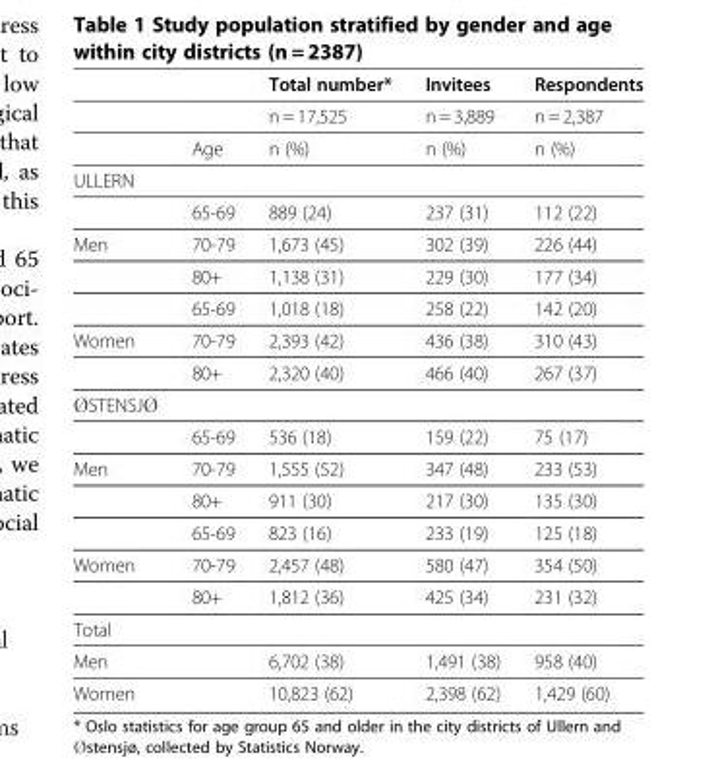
<table><thead><tr><td></td><td></td><td>Total number*</td><td>Invitees</td><td>Respondents</td></tr></thead><tbody><tr><td></td><td></td><td>n = 17,525</td><td>n = 3,889</td><td>n = 2,387</td></tr><tr><td></td><td>Age</td><td>n (%)</td><td>n (%)</td><td>n (%)</td></tr><tr><td colspan="5">ULLERN</td></tr><tr><td></td><td>65-69</td><td>889 (24)</td><td>237 (31)</td><td>112 (22)</td></tr><tr><td rowspan="3">Men</td><td>70-79</td><td>1,673 (45)</td><td>302 (39)</td><td>226 (44)</td></tr><tr><td>80+</td><td>1,138 (31)</td><td>229 (30)</td><td>177 (34)</td></tr><tr><td>65-69</td><td>1,018 (18)</td><td>258 (22)</td><td>142 (20)</td></tr><tr><td rowspan="2">Women</td><td>70-79</td><td>2,393 (42)</td><td>436 (38)</td><td>310 (43)</td></tr><tr><td>80+</td><td>2,320 (40)</td><td>466 (40)</td><td>267 (37)</td></tr><tr><td colspan="5">ØSTENSJØ</td></tr><tr><td></td><td>65-69</td><td>536 (18)</td><td>159 (22)</td><td>75 (17)</td></tr><tr><td rowspan="3">Men</td><td>70-79</td><td>1,555 (52)</td><td>347 (48)</td><td>233 (53)</td></tr><tr><td>80+</td><td>911 (30)</td><td>217 (30)</td><td>135 (30)</td></tr><tr><td>65-69</td><td>823 (16)</td><td>233 (19)</td><td>125 (18)</td></tr><tr><td rowspan="2">Women</td><td>70-79</td><td>2,457 (48)</td><td>580 (47)</td><td>354 (50)</td></tr><tr><td>80+</td><td>1,812 (36)</td><td>425 (34)</td><td>231 (32)</td></tr><tr><td colspan="5">Total</td></tr><tr><td>Men</td><td></td><td>6,702 (38)</td><td>1,491 (38)</td><td>958 (40)</td></tr><tr><td>Women</td><td></td><td>10,823 (62)</td><td>2,398 (62)</td><td>1,429 (60)</td></tr></tbody></table>